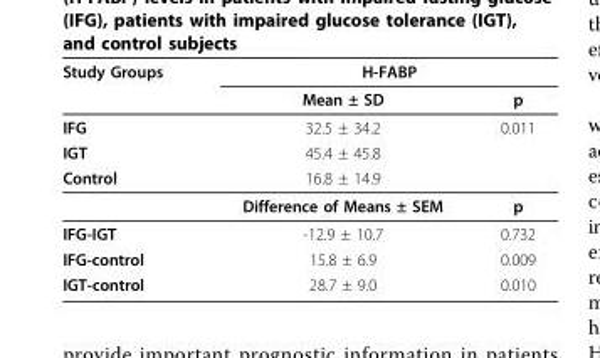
<table><thead><tr><td rowspan="2">Study Groups</td><td colspan="2">H-FABP</td></tr><tr><td>Mean ± SD</td><td>p</td></tr></thead><tbody><tr><td>IFG</td><td>32.5 ± 34.2</td><td>0.011</td></tr><tr><td>IGT</td><td>45.4 ± 45.8</td><td></td></tr><tr><td rowspan="2">Control</td><td>16.8 ± 14.9</td><td></td></tr><tr><td>Difference of Means ± SEM</td><td>p</td></tr><tr><td>IFG-IGT</td><td>-12.9 ± 10.7</td><td>0.732</td></tr><tr><td>IFG-control</td><td>15.8 ± 6.9</td><td>0.009</td></tr><tr><td>IGT-control</td><td>28.7 ± 9.0</td><td>0.010</td></tr></tbody></table>